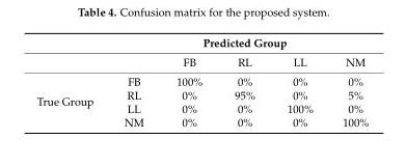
<table><thead><tr><td rowspan="2"></td><td colspan="5">Predicted Group</td></tr><tr><td></td><td>FB</td><td>RL</td><td>LL</td><td>NM</td></tr></thead><tbody><tr><td rowspan="4">True Group</td><td>FB</td><td>100%</td><td>0%</td><td>0%</td><td>0%</td></tr><tr><td>RL</td><td>0%</td><td>95%</td><td>0%</td><td>5%</td></tr><tr><td>LL</td><td>0%</td><td>0%</td><td>100%</td><td>0%</td></tr><tr><td>NM</td><td>0%</td><td>0%</td><td>0%</td><td>100%</td></tr></tbody></table>